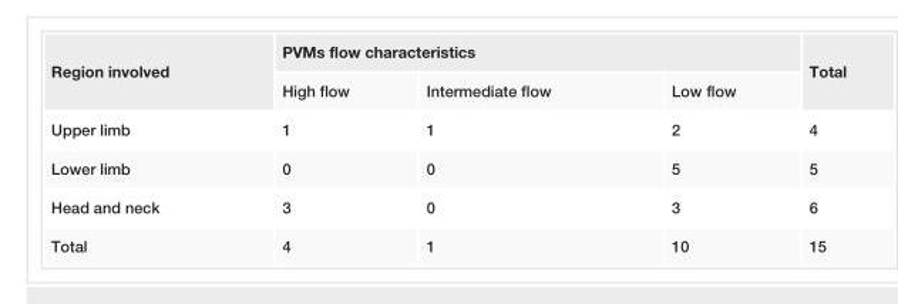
<table><tbody><tr><td rowspan="2">Region involved</td><td colspan="3">PVMs flow characteristics</td><td rowspan="2">Total</td></tr><tr><td>High flow</td><td>Intermediate flow</td><td>Low flow</td></tr><tr><td>Upper limb</td><td>1</td><td>1</td><td>2</td><td>4</td></tr><tr><td>Lower limb</td><td>0</td><td>0</td><td>5</td><td>5</td></tr><tr><td>Head and neck</td><td>3</td><td>0</td><td>3</td><td>6</td></tr><tr><td>Total</td><td>4</td><td>1</td><td>10</td><td>15</td></tr></tbody></table>